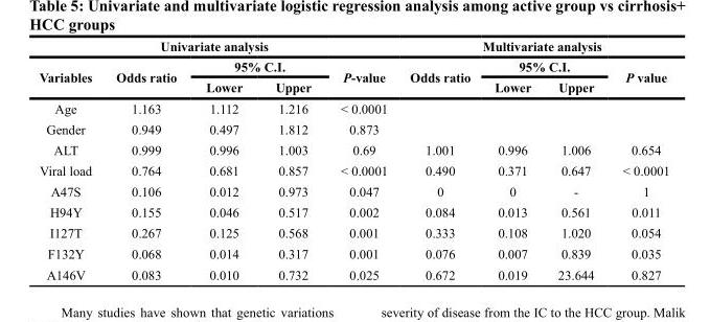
<table><thead><tr><td colspan="5">Univariate analysis</td><td colspan="4">Multivariate analysis</td></tr><tr><td rowspan="2">Variables</td><td rowspan="2">Odds ratio</td><td colspan="2">95% C.I.</td><td rowspan="2">P-value</td><td rowspan="2">Odds ratio</td><td colspan="2">95% C.I.</td><td rowspan="2">P value</td></tr><tr><td>Lower</td><td>Upper</td><td>Lower</td><td>Upper</td></tr></thead><tbody><tr><td>Age</td><td>1.163</td><td>1.112</td><td>1.216</td><td>&lt; 0.0001</td><td></td><td></td><td></td><td></td></tr><tr><td>Gender</td><td>0.949</td><td>0.497</td><td>1.812</td><td>0.873</td><td></td><td></td><td></td><td></td></tr><tr><td>ALT</td><td>0.999</td><td>0.996</td><td>1.003</td><td>0.69</td><td>1.001</td><td>0.996</td><td>1.006</td><td>0.654</td></tr><tr><td>Viral load</td><td>0.764</td><td>0.681</td><td>0.857</td><td>&lt; 0.0001</td><td>0.490</td><td>0.371</td><td>0.647</td><td>&lt; 0.0001</td></tr><tr><td>A47S</td><td>0.106</td><td>0.012</td><td>0.973</td><td>0.047</td><td>0</td><td>0</td><td>-</td><td>1</td></tr><tr><td>H94Y</td><td>0.155</td><td>0.046</td><td>0.517</td><td>0.002</td><td>0.084</td><td>0.013</td><td>0.561</td><td>0.011</td></tr><tr><td>I127T</td><td>0.267</td><td>0.125</td><td>0.568</td><td>0.001</td><td>0.333</td><td>0.108</td><td>1.020</td><td>0.054</td></tr><tr><td>F132Y</td><td>0.068</td><td>0.014</td><td>0.317</td><td>0.001</td><td>0.076</td><td>0.007</td><td>0.839</td><td>0.035</td></tr><tr><td>A146V</td><td>0.083</td><td>0.010</td><td>0.732</td><td>0.025</td><td>0.672</td><td>0.019</td><td>23.644</td><td>0.827</td></tr></tbody></table>